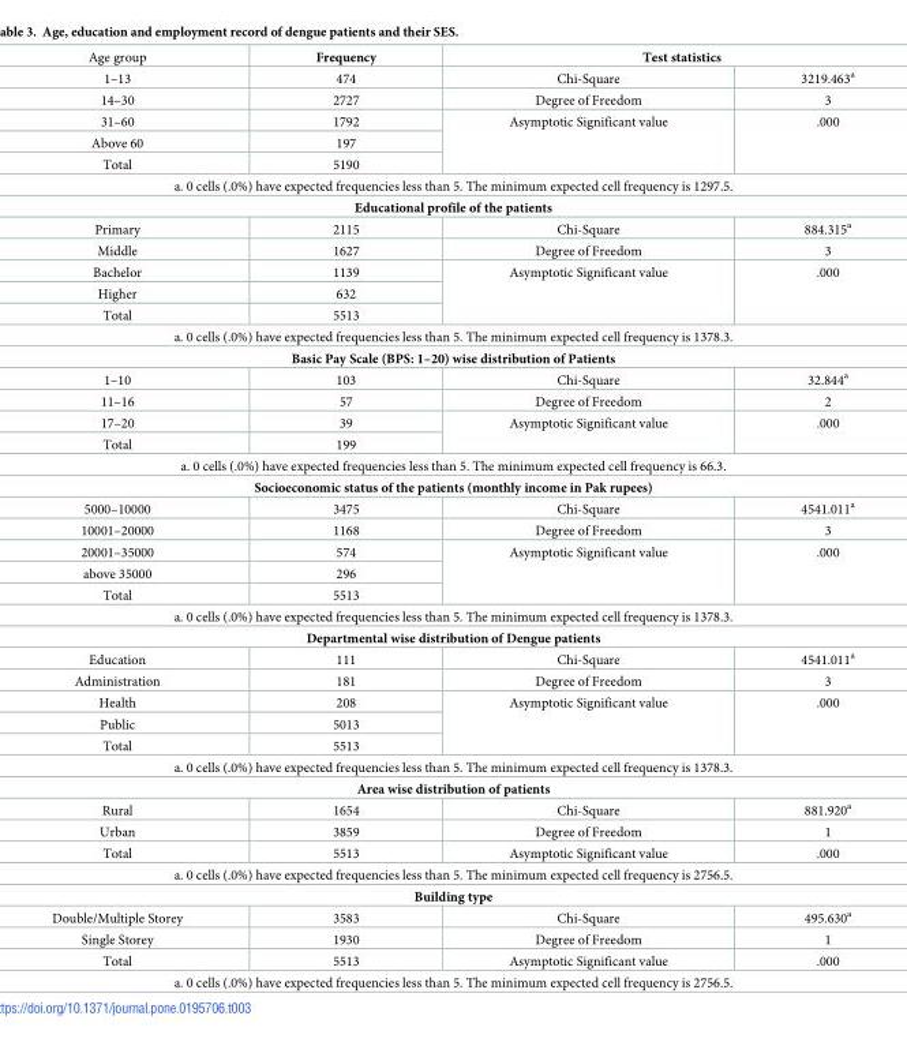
<table><tbody><tr><td>Age group</td><td>Frequency</td><td colspan="2">Test statistics</td></tr><tr><td>1–13</td><td>474</td><td>Chi-Square</td><td>3219.463<sup>a</sup></td></tr><tr><td>14–30</td><td>2727</td><td>Degree of Freedom</td><td>3</td></tr><tr><td>31–60</td><td>1792</td><td rowspan="3">Asymptotic Significant value</td><td rowspan="3">.000</td></tr><tr><td>Above 60</td><td>197</td></tr><tr><td>Total</td><td>5190</td></tr><tr><td colspan="4">a. 0 cells (.0%) have expected frequencies less than 5. The minimum expected cell frequency is 1297.5.</td></tr><tr><td colspan="4">Educational profile of the patients</td></tr><tr><td>Primary</td><td>2115</td><td>Chi-Square</td><td>884.315<sup>a</sup></td></tr><tr><td>Middle</td><td>1627</td><td>Degree of Freedom</td><td>3</td></tr><tr><td>Bachelor</td><td>1139</td><td rowspan="3">Asymptotic Significant value</td><td rowspan="3">.000</td></tr><tr><td>Higher</td><td>632</td></tr><tr><td>Total</td><td>5513</td></tr><tr><td colspan="4">a. 0 cells (.0%) have expected frequencies less than 5. The minimum expected cell frequency is 1378.3.</td></tr><tr><td colspan="4">Basic Pay Scale (BPS: 1–20) wise distribution of Patients</td></tr><tr><td>1–10</td><td>103</td><td>Chi-Square</td><td>32.844<sup>a</sup></td></tr><tr><td>11–16</td><td>57</td><td>Degree of Freedom</td><td>2</td></tr><tr><td>17–20</td><td>39</td><td rowspan="2">Asymptotic Significant value</td><td rowspan="2">.000</td></tr><tr><td>Total</td><td>199</td></tr><tr><td colspan="4">a. 0 cells (.0%) have expected frequencies less than 5. The minimum expected cell frequency is 66.3.</td></tr><tr><td colspan="4">Socioeconomic status of the patients (monthly income in Pak rupees)</td></tr><tr><td>5000–10000</td><td>3475</td><td>Chi-Square</td><td>4541.011<sup>a</sup></td></tr><tr><td>10001–20000</td><td>1168</td><td>Degree of Freedom</td><td>3</td></tr><tr><td>20001–35000</td><td>574</td><td rowspan="3">Asymptotic Significant value</td><td rowspan="3">.000</td></tr><tr><td>above 35000</td><td>296</td></tr><tr><td>Total</td><td>5513</td></tr><tr><td colspan="4">a. 0 cells (.0%) have expected frequencies less than 5. The minimum expected cell frequency is 1378.3.</td></tr><tr><td colspan="4">Departmental wise distribution of Dengue patients</td></tr><tr><td>Education</td><td>111</td><td>Chi-Square</td><td>4541.011<sup>a</sup></td></tr><tr><td>Administration</td><td>181</td><td>Degree of Freedom</td><td>3</td></tr><tr><td>Health</td><td>208</td><td rowspan="3">Asymptotic Significant value</td><td rowspan="3">.000</td></tr><tr><td>Public</td><td>5013</td></tr><tr><td>Total</td><td>5513</td></tr><tr><td colspan="4">a. 0 cells (.0%) have expected frequencies less than 5. The minimum expected cell frequency is 1378.3.</td></tr><tr><td colspan="4">Area wise distribution of patients</td></tr><tr><td>Rural</td><td>1654</td><td>Chi-Square</td><td>881.920<sup>a</sup></td></tr><tr><td>Urban</td><td>3859</td><td>Degree of Freedom</td><td>1</td></tr><tr><td>Total</td><td>5513</td><td>Asymptotic Significant value</td><td>.000</td></tr><tr><td colspan="4">a. 0 cells (.0%) have expected frequencies less than 5. The minimum expected cell frequency is 2756.5.</td></tr><tr><td colspan="4">Building type</td></tr><tr><td>Double/Multiple Storey</td><td>3583</td><td>Chi-Square</td><td>495.630<sup>a</sup></td></tr><tr><td>Single Storey</td><td>1930</td><td>Degree of Freedom</td><td>1</td></tr><tr><td>Total</td><td>5513</td><td>Asymptotic Significant value</td><td>.000</td></tr><tr><td colspan="4">a. 0 cells (.0%) have expected frequencies less than 5. The minimum expected cell frequency is 2756.5.</td></tr></tbody></table>